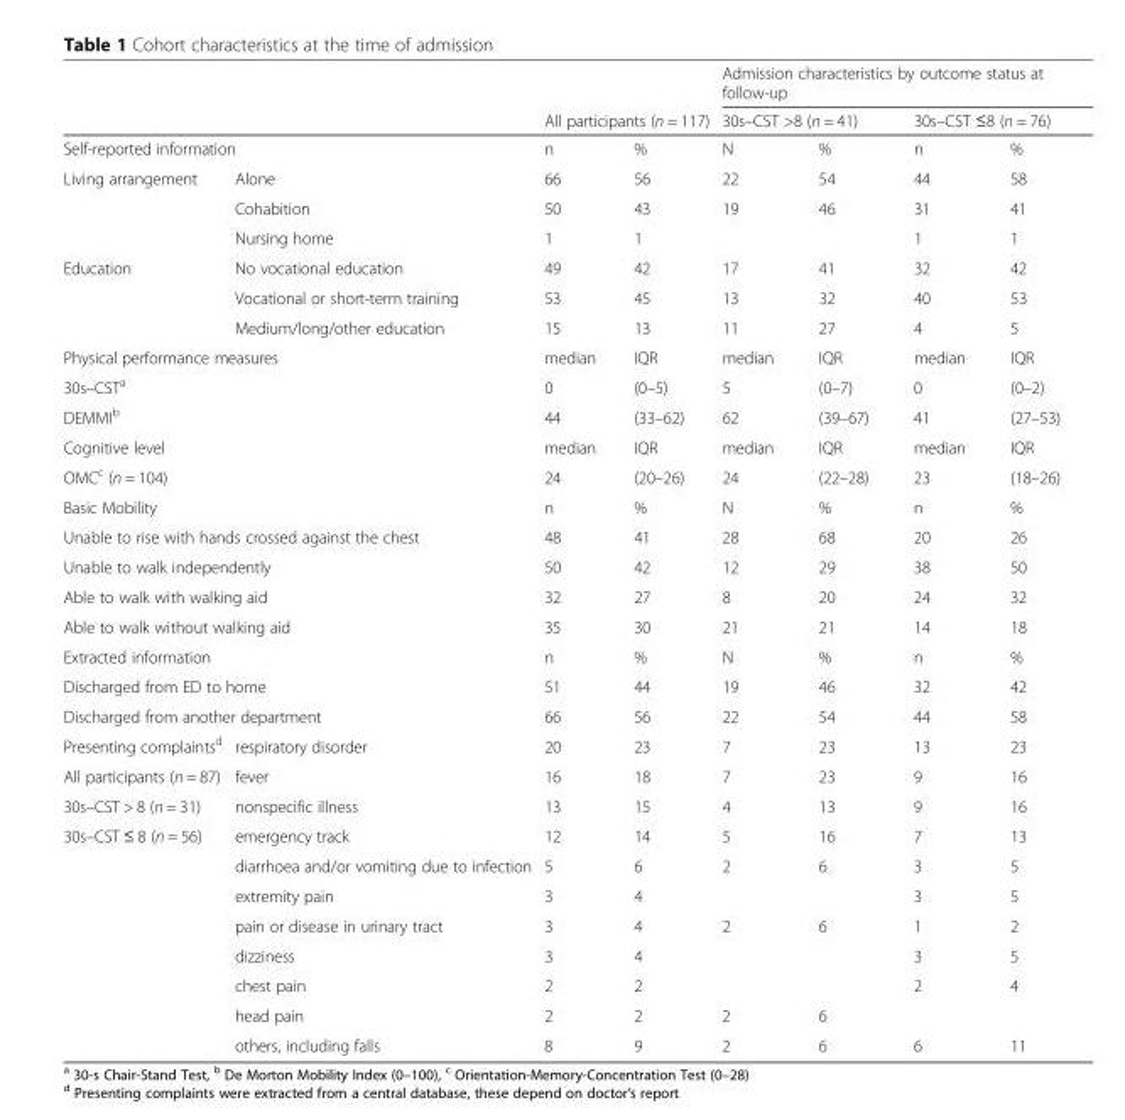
<table><thead><tr><td rowspan="2"></td><td rowspan="2"></td><td></td><td></td><td colspan="4">Admission characteristics by outcome status at follow-up</td></tr><tr><td colspan="2">All participants (n = 117)</td><td colspan="2">30s–CST &gt;8 (n = 41)</td><td colspan="2">30s–CST ≤8 (n = 76)</td></tr><tr><td colspan="2">Self-reported information</td><td>n</td><td>%</td><td>N</td><td>%</td><td>n</td><td>%</td></tr></thead><tbody><tr><td rowspan="3">Living arrangement</td><td>Alone</td><td>66</td><td>56</td><td>22</td><td>54</td><td>44</td><td>58</td></tr><tr><td>Cohabition</td><td>50</td><td>43</td><td>19</td><td>46</td><td>31</td><td>41</td></tr><tr><td>Nursing home</td><td>1</td><td>1</td><td></td><td></td><td>1</td><td>1</td></tr><tr><td rowspan="3">Education</td><td>No vocational education</td><td>49</td><td>42</td><td>17</td><td>41</td><td>32</td><td>42</td></tr><tr><td>Vocational or short-term training</td><td>53</td><td>45</td><td>13</td><td>32</td><td>40</td><td>53</td></tr><tr><td>Medium/long/other education</td><td>15</td><td>13</td><td>11</td><td>27</td><td>4</td><td>5</td></tr><tr><td colspan="2">Physical performance measures</td><td>median</td><td>IQR</td><td>median</td><td>IQR</td><td>median</td><td>IQR</td></tr><tr><td>30s–CST<sup>a</sup></td><td></td><td>0</td><td>(0–5)</td><td>5</td><td>(0–7)</td><td>0</td><td>(0–2)</td></tr><tr><td>DEMMI<sup>b</sup></td><td></td><td>44</td><td>(33–62)</td><td>62</td><td>(39–67)</td><td>41</td><td>(27–53)</td></tr><tr><td colspan="2">Cognitive level</td><td>median</td><td>IQR</td><td>median</td><td>IQR</td><td>median</td><td>IQR</td></tr><tr><td>OMC<sup>c</sup> (n = 104)</td><td></td><td>24</td><td>(20–26)</td><td>24</td><td>(22–28)</td><td>23</td><td>(18–26)</td></tr><tr><td colspan="2">Basic Mobility</td><td>n</td><td>%</td><td>N</td><td>%</td><td>n</td><td>%</td></tr><tr><td colspan="2">Unable to rise with hands crossed against the chest</td><td>48</td><td>41</td><td>28</td><td>68</td><td>20</td><td>26</td></tr><tr><td colspan="2">Unable to walk independently</td><td>50</td><td>42</td><td>12</td><td>29</td><td>38</td><td>50</td></tr><tr><td colspan="2">Able to walk with walking aid</td><td>32</td><td>27</td><td>8</td><td>20</td><td>24</td><td>32</td></tr><tr><td colspan="2">Able to walk without walking aid</td><td>35</td><td>30</td><td>21</td><td>21</td><td>14</td><td>18</td></tr><tr><td colspan="2">Extracted information</td><td>n</td><td>%</td><td>N</td><td>%</td><td>n</td><td>%</td></tr><tr><td colspan="2">Discharged from ED to home</td><td>51</td><td>44</td><td>19</td><td>46</td><td>32</td><td>42</td></tr><tr><td colspan="2">Discharged from another department</td><td>66</td><td>56</td><td>22</td><td>54</td><td>44</td><td>58</td></tr><tr><td>Presenting complaints<sup>d</sup></td><td>respiratory disorder</td><td>20</td><td>23</td><td>7</td><td>23</td><td>13</td><td>23</td></tr><tr><td>All participants (n = 87)</td><td>fever</td><td>16</td><td>18</td><td>7</td><td>23</td><td>9</td><td>16</td></tr><tr><td>30s–CST &gt; 8 (n = 31)</td><td>nonspecific illness</td><td>13</td><td>15</td><td>4</td><td>13</td><td>9</td><td>16</td></tr><tr><td rowspan="8">30s–CST ≤ 8 (n = 56)</td><td>emergency track</td><td>12</td><td>14</td><td>5</td><td>16</td><td>7</td><td>13</td></tr><tr><td>diarrhoea and/or vomiting due to infection</td><td>5</td><td>6</td><td>2</td><td>6</td><td>3</td><td>5</td></tr><tr><td>extremity pain</td><td>3</td><td>4</td><td></td><td></td><td>3</td><td>5</td></tr><tr><td>pain or disease in urinary tract</td><td>3</td><td>4</td><td>2</td><td>6</td><td>1</td><td>2</td></tr><tr><td>dizziness</td><td>3</td><td>4</td><td></td><td></td><td>3</td><td>5</td></tr><tr><td>chest pain</td><td>2</td><td>2</td><td></td><td></td><td>2</td><td>4</td></tr><tr><td>head pain</td><td>2</td><td>2</td><td>2</td><td>6</td><td></td><td></td></tr><tr><td>others, including falls</td><td>8</td><td>9</td><td>2</td><td>6</td><td>6</td><td>11</td></tr></tbody></table>